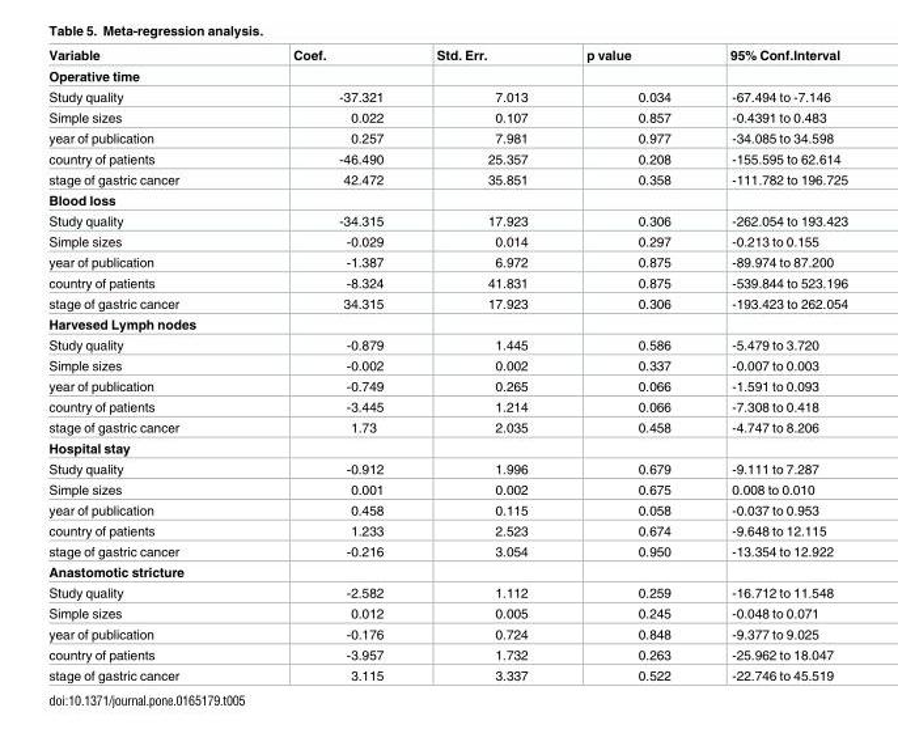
<table><thead><tr><td>Variable</td><td>Coef.</td><td>Std. Err.</td><td>p value</td><td>95% Conf.Interval</td></tr></thead><tbody><tr><td colspan="5">Operative time</td></tr><tr><td>Study quality</td><td>-37.321</td><td>7.013</td><td>0.034</td><td>-67.494 to -7.146</td></tr><tr><td>Simple sizes</td><td>0.022</td><td>0.107</td><td>0.857</td><td>-0.4391 to 0.483</td></tr><tr><td>year of publication</td><td>0.257</td><td>7.981</td><td>0.977</td><td>-34.085 to 34.598</td></tr><tr><td>country of patients</td><td>-46.490</td><td>25.357</td><td>0.208</td><td>-155.595 to 62.614</td></tr><tr><td>stage of gastric cancer</td><td>42.472</td><td>35.851</td><td>0.358</td><td>-111.782 to 196.725</td></tr><tr><td colspan="5">Blood loss</td></tr><tr><td>Study quality</td><td>-34.315</td><td>17.923</td><td>0.306</td><td>-262.054 to 193.423</td></tr><tr><td>Simple sizes</td><td>-0.029</td><td>0.014</td><td>0.297</td><td>-0.213 to 0.155</td></tr><tr><td>year of publication</td><td>-1.387</td><td>6.972</td><td>0.875</td><td>-89.974 to 87.200</td></tr><tr><td>country of patients</td><td>-8.324</td><td>41.831</td><td>0.875</td><td>-539.844 to 523.196</td></tr><tr><td>stage of gastric cancer</td><td>34.315</td><td>17.923</td><td>0.306</td><td>-193.423 to 262.054</td></tr><tr><td colspan="5">Harvesed Lymph nodes</td></tr><tr><td>Study quality</td><td>-0.879</td><td>1.445</td><td>0.586</td><td>-5.479 to 3.720</td></tr><tr><td>Simple sizes</td><td>-0.002</td><td>0.002</td><td>0.337</td><td>-0.007 to 0.003</td></tr><tr><td>year of publication</td><td>-0.749</td><td>0.265</td><td>0.066</td><td>-1.591 to 0.093</td></tr><tr><td>country of patients</td><td>-3.445</td><td>1.214</td><td>0.066</td><td>-7.308 to 0.418</td></tr><tr><td>stage of gastric cancer</td><td>1.73</td><td>2.035</td><td>0.458</td><td>-4.747 to 8.206</td></tr><tr><td colspan="5">Hospital stay</td></tr><tr><td>Study quality</td><td>-0.912</td><td>1.996</td><td>0.679</td><td>-9.111 to 7.287</td></tr><tr><td>Simple sizes</td><td>0.001</td><td>0.002</td><td>0.675</td><td>0.008 to 0.010</td></tr><tr><td>year of publication</td><td>0.458</td><td>0.115</td><td>0.058</td><td>-0.037 to 0.953</td></tr><tr><td>country of patients</td><td>1.233</td><td>2.523</td><td>0.674</td><td>-9.648 to 12.115</td></tr><tr><td>stage of gastric cancer</td><td>-0.216</td><td>3.054</td><td>0.950</td><td>-13.354 to 12.922</td></tr><tr><td colspan="5">Anastomotic stricture</td></tr><tr><td>Study quality</td><td>-2.582</td><td>1.112</td><td>0.259</td><td>-16.712 to 11.548</td></tr><tr><td>Simple sizes</td><td>0.012</td><td>0.005</td><td>0.245</td><td>-0.048 to 0.071</td></tr><tr><td>year of publication</td><td>-0.176</td><td>0.724</td><td>0.848</td><td>-9.377 to 9.025</td></tr><tr><td>country of patients</td><td>-3.957</td><td>1.732</td><td>0.263</td><td>-25.962 to 18.047</td></tr><tr><td>stage of gastric cancer</td><td>3.115</td><td>3.337</td><td>0.522</td><td>-22.746 to 45.519</td></tr></tbody></table>